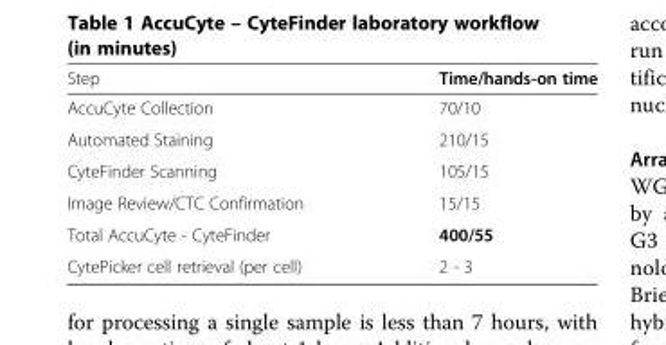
<table><thead><tr><td>Step</td><td>Time/hands-on time</td></tr></thead><tbody><tr><td>AccuCyte Collection</td><td>70/10</td></tr><tr><td>Automated Staining</td><td>210/15</td></tr><tr><td>CyteFinder Scanning</td><td>105/15</td></tr><tr><td>Image Review/CTC Confirmation</td><td>15/15</td></tr><tr><td>Total AccuCyte - CyteFinder</td><td>400/55</td></tr><tr><td>CytePicker cell retrieval (per cell)</td><td>2 - 3</td></tr></tbody></table>